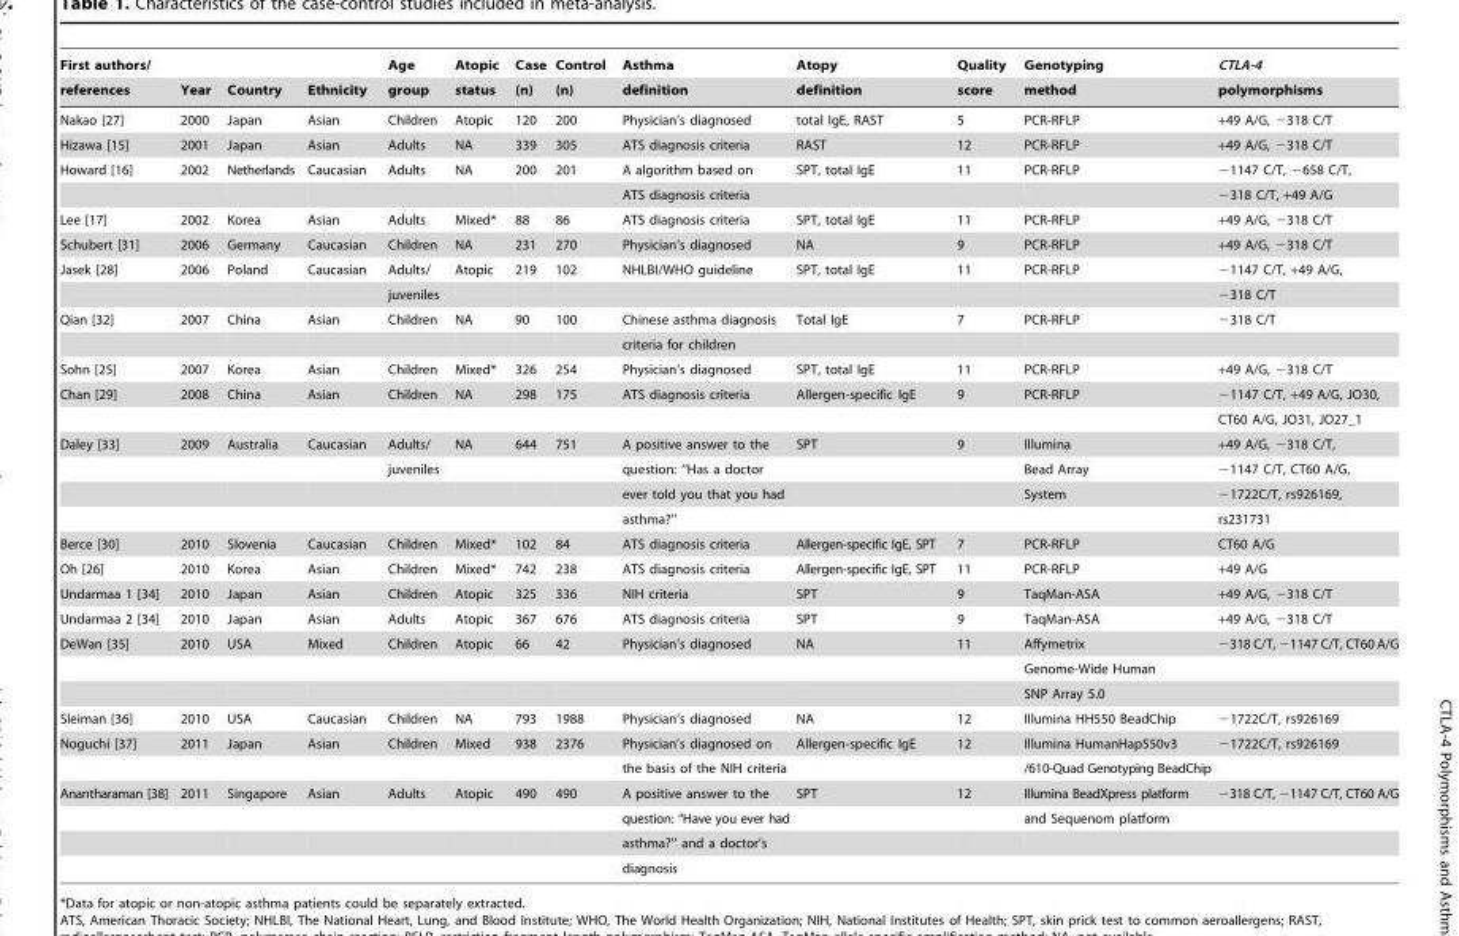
<table><thead><tr><td rowspan="2">First authors/ references</td><td rowspan="2">Year</td><td rowspan="2">Country</td><td rowspan="2">Ethnicity</td><td rowspan="2">Age group</td><td rowspan="2">Atopic status</td><td rowspan="2">Case (n)</td><td rowspan="2">Control (n)</td><td rowspan="2">Asthma definition</td><td rowspan="2">Atopy definition</td><td rowspan="2">Quality score</td><td rowspan="2">Genotyping method</td><td rowspan="2">CTLA-4 polymorphisms</td></tr><tr></tr></thead><tbody><tr><td>Nakao [27]</td><td>2000</td><td>Japan</td><td>Asian</td><td>Children</td><td>Atopic</td><td>120</td><td>200</td><td>Physician’s diagnosed</td><td>total IgE, RAST</td><td>5</td><td>PCR-RFLP</td><td>+49 A/G, −318 C/T</td></tr><tr><td>Hizawa [15]</td><td>2001</td><td>Japan</td><td>Asian</td><td>Adults</td><td>NA</td><td>339</td><td>305</td><td>ATS diagnosis criteria</td><td>RAST</td><td>12</td><td>PCR-RFLP</td><td>+49 A/G, −318 C/T</td></tr><tr><td rowspan="2">Howard [16]</td><td>2002</td><td>Netherlands</td><td>Caucasian</td><td>Adults</td><td>NA</td><td>200</td><td>201</td><td>A algorithm based on</td><td>SPT, total IgE</td><td>11</td><td>PCR-RFLP</td><td>−1147 C/T, −658 C/T,</td></tr><tr><td></td><td></td><td></td><td></td><td></td><td></td><td></td><td>ATS diagnosis criteria</td><td></td><td></td><td></td><td>−318 C/T, +49 A/G</td></tr><tr><td>Lee [17]</td><td>2002</td><td>Korea</td><td>Asian</td><td>Adults</td><td>Mixed*</td><td>88</td><td>86</td><td>ATS diagnosis criteria</td><td>SPT, total IgE</td><td>11</td><td>PCR-RFLP</td><td>+49 A/G, −318 C/T</td></tr><tr><td>Schubert [31]</td><td>2006</td><td>Germany</td><td>Caucasian</td><td>Children</td><td>NA</td><td>231</td><td>270</td><td>Physician’s diagnosed</td><td>NA</td><td>9</td><td>PCR-RFLP</td><td>+49 A/G, −318 C/T</td></tr><tr><td rowspan="2">Jasek [28]</td><td>2006</td><td>Poland</td><td>Caucasian</td><td>Adults/</td><td>Atopic</td><td>219</td><td>102</td><td>NHLBI/WHO guideline</td><td>SPT, total IgE</td><td>11</td><td>PCR-RFLP</td><td>−1147 C/T, +49 A/G,</td></tr><tr><td></td><td></td><td></td><td>juveniles</td><td></td><td></td><td></td><td></td><td></td><td></td><td></td><td>−318 C/T</td></tr><tr><td rowspan="2">Qian [32]</td><td>2007</td><td>China</td><td>Asian</td><td>Children</td><td>NA</td><td>90</td><td>100</td><td>Chinese asthma diagnosis</td><td>Total IgE</td><td>7</td><td>PCR-RFLP</td><td>−318 C/T</td></tr><tr><td></td><td></td><td></td><td></td><td></td><td></td><td></td><td>criteria for children</td><td></td><td></td><td></td><td></td></tr><tr><td>Sohn [25]</td><td>2007</td><td>Korea</td><td>Asian</td><td>Children</td><td>Mixed*</td><td>326</td><td>254</td><td>Physician’s diagnosed</td><td>SPT, total IgE</td><td>11</td><td>PCR-RFLP</td><td>+49 A/G, −318 C/T</td></tr><tr><td rowspan="2">Chan [29]</td><td>2008</td><td>China</td><td>Asian</td><td>Children</td><td>NA</td><td>298</td><td>175</td><td>ATS diagnosis criteria</td><td>Allergen-specific IgE</td><td>9</td><td>PCR-RFLP</td><td>−1147 C/T, +49 A/G, JO30,</td></tr><tr><td></td><td></td><td></td><td></td><td></td><td></td><td></td><td></td><td></td><td></td><td></td><td>CT60 A/G, JO31, JO27_1</td></tr><tr><td rowspan="4">Daley [33]</td><td>2009</td><td>Australia</td><td>Caucasian</td><td>Adults/</td><td>NA</td><td>644</td><td>751</td><td>A positive answer to the</td><td>SPT</td><td>9</td><td>Illumina</td><td>+49 A/G, −318 C/T,</td></tr><tr><td></td><td></td><td></td><td>juveniles</td><td></td><td></td><td></td><td>question: ‘‘Has a doctor</td><td></td><td></td><td>Bead Array</td><td>−1147 C/T, CT60 A/G,</td></tr><tr><td></td><td></td><td></td><td></td><td></td><td></td><td></td><td>ever told you that you had</td><td></td><td></td><td>System</td><td>−1722C/T, rs926169,</td></tr><tr><td></td><td></td><td></td><td></td><td></td><td></td><td></td><td>asthma?’’</td><td></td><td></td><td></td><td>rs231731</td></tr><tr><td>Berce [30]</td><td>2010</td><td>Slovenia</td><td>Caucasian</td><td>Children</td><td>Mixed*</td><td>102</td><td>84</td><td>ATS diagnosis criteria</td><td>Allergen-specific IgE, SPT</td><td>7</td><td>PCR-RFLP</td><td>CT60 A/G</td></tr><tr><td>Oh [26]</td><td>2010</td><td>Korea</td><td>Asian</td><td>Children</td><td>Mixed*</td><td>742</td><td>238</td><td>ATS diagnosis criteria</td><td>Allergen-specific IgE, SPT</td><td>11</td><td>PCR-RFLP</td><td>+49 A/G</td></tr><tr><td>Undarmaa 1 [34]</td><td>2010</td><td>Japan</td><td>Asian</td><td>Children</td><td>Atopic</td><td>325</td><td>336</td><td>NIH criteria</td><td>SPT</td><td>9</td><td>TaqMan-ASA</td><td>+49 A/G, −318 C/T</td></tr><tr><td>Undarmaa 2 [34]</td><td>2010</td><td>Japan</td><td>Asian</td><td>Adults</td><td>Atopic</td><td>367</td><td>676</td><td>ATS diagnosis criteria</td><td>SPT</td><td>9</td><td>TaqMan-ASA</td><td>+49 A/G, −318 C/T</td></tr><tr><td rowspan="3">DeWan [35]</td><td>2010</td><td>USA</td><td>Mixed</td><td>Children</td><td>Atopic</td><td>66</td><td>42</td><td>Physician’s diagnosed</td><td>NA</td><td>11</td><td>Affymetrix</td><td>−318 C/T, −1147 C/T, CT60 A/G</td></tr><tr><td></td><td></td><td></td><td></td><td></td><td></td><td></td><td></td><td></td><td></td><td>Genome-Wide Human</td><td></td></tr><tr><td></td><td></td><td></td><td></td><td></td><td></td><td></td><td></td><td></td><td></td><td>SNP Array 5.0</td><td></td></tr><tr><td>Sleiman [36]</td><td>2010</td><td>USA</td><td>Caucasian</td><td>Children</td><td>NA</td><td>793</td><td>1988</td><td>Physician’s diagnosed</td><td>NA</td><td>12</td><td>Illumina HH550 BeadChip</td><td>−1722C/T, rs926169</td></tr><tr><td rowspan="2">Noguchi [37]</td><td>2011</td><td>Japan</td><td>Asian</td><td>Children</td><td>Mixed</td><td>938</td><td>2376</td><td>Physician’s diagnosed on</td><td>Allergen-specific IgE</td><td>12</td><td>Illumina HumanHap550v3</td><td>−1722C/T, rs926169</td></tr><tr><td></td><td></td><td></td><td></td><td></td><td></td><td></td><td>the basis of the NIH criteria</td><td></td><td></td><td>/610-Quad Genotyping BeadChip</td><td></td></tr><tr><td rowspan="4">Anantharaman [38]</td><td>2011</td><td>Singapore</td><td>Asian</td><td>Adults</td><td>Atopic</td><td>490</td><td>490</td><td>A positive answer to the</td><td>SPT</td><td>12</td><td>Illumina BeadXpress platform</td><td>−318 C/T, −1147 C/T, CT60 A/G</td></tr><tr><td></td><td></td><td></td><td></td><td></td><td></td><td></td><td>question: ‘‘Have you ever had</td><td></td><td></td><td>and Sequenom platform</td><td></td></tr><tr><td></td><td></td><td></td><td></td><td></td><td></td><td></td><td>asthma?’’ and a doctor’s</td><td></td><td></td><td></td><td></td></tr><tr><td></td><td></td><td></td><td></td><td></td><td></td><td></td><td>diagnosis</td><td></td><td></td><td></td><td></td></tr></tbody></table>